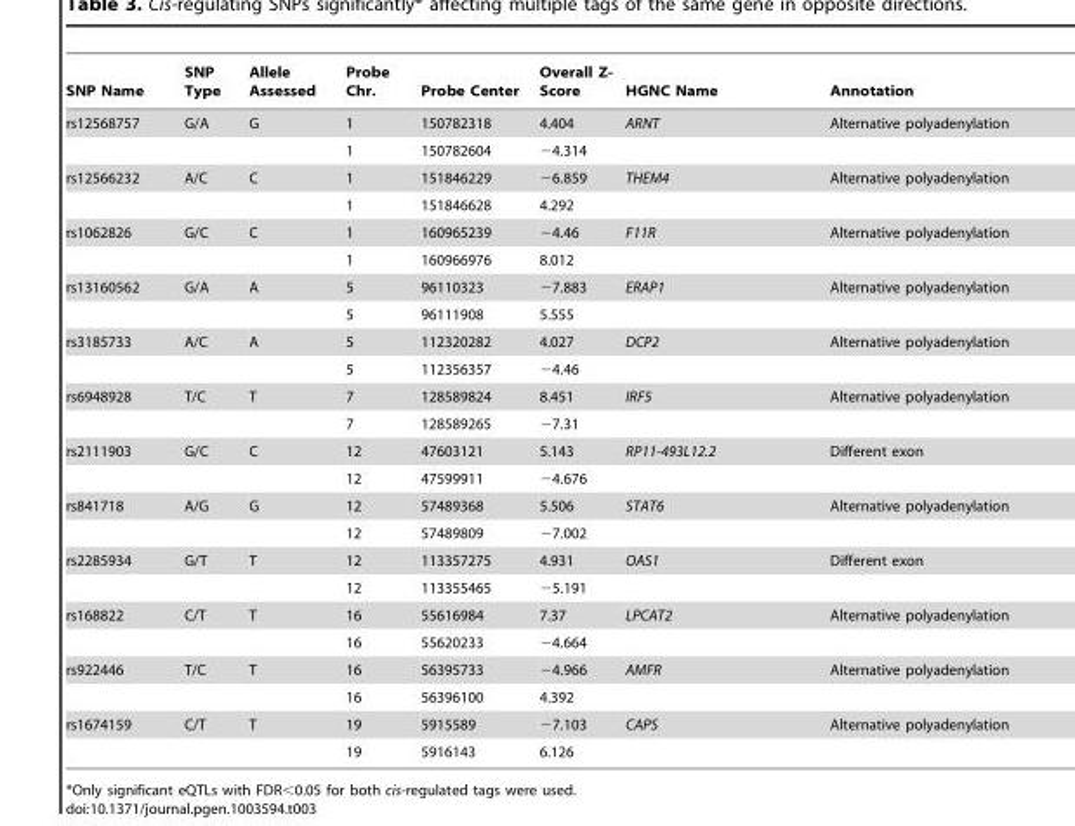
<table><thead><tr><td>SNP Name</td><td>SNP Type</td><td>Allele Assessed</td><td>Probe Chr.</td><td>Probe Center</td><td>Overall Z- Score</td><td>HGNC Name</td><td>Annotation</td></tr></thead><tbody><tr><td rowspan="2">rs12568757</td><td>G/A</td><td>G</td><td>1</td><td>150782318</td><td>4.404</td><td>ARNT</td><td>Alternative polyadenylation</td></tr><tr><td></td><td></td><td>1</td><td>150782604</td><td>−4.314</td><td></td><td></td></tr><tr><td rowspan="2">rs12566232</td><td>A/C</td><td>C</td><td>1</td><td>151846229</td><td>−6.859</td><td>THEM4</td><td>Alternative polyadenylation</td></tr><tr><td></td><td></td><td>1</td><td>151846628</td><td>4.292</td><td></td><td></td></tr><tr><td rowspan="2">rs1062826</td><td>G/C</td><td>C</td><td>1</td><td>160965239</td><td>−4.46</td><td>F11R</td><td>Alternative polyadenylation</td></tr><tr><td></td><td></td><td>1</td><td>160966976</td><td>8.012</td><td></td><td></td></tr><tr><td rowspan="2">rs13160562</td><td>G/A</td><td>A</td><td>5</td><td>96110323</td><td>−7.883</td><td>ERAP1</td><td>Alternative polyadenylation</td></tr><tr><td></td><td></td><td>5</td><td>96111908</td><td>5.555</td><td></td><td></td></tr><tr><td rowspan="2">rs3185733</td><td>A/C</td><td>A</td><td>5</td><td>112320282</td><td>4.027</td><td>DCP2</td><td>Alternative polyadenylation</td></tr><tr><td></td><td></td><td>5</td><td>112356357</td><td>−4.46</td><td></td><td></td></tr><tr><td rowspan="2">rs6948928</td><td>T/C</td><td>T</td><td>7</td><td>128589824</td><td>8.451</td><td>IRF5</td><td>Alternative polyadenylation</td></tr><tr><td></td><td></td><td>7</td><td>128589265</td><td>−7.31</td><td></td><td></td></tr><tr><td rowspan="2">rs2111903</td><td>G/C</td><td>C</td><td>12</td><td>47603121</td><td>5.143</td><td>RP11-493L12.2</td><td>Different exon</td></tr><tr><td></td><td></td><td>12</td><td>47599911</td><td>−4.676</td><td></td><td></td></tr><tr><td rowspan="2">rs841718</td><td>A/G</td><td>G</td><td>12</td><td>57489368</td><td>5.506</td><td>STAT6</td><td>Alternative polyadenylation</td></tr><tr><td></td><td></td><td>12</td><td>57489809</td><td>−7.002</td><td></td><td></td></tr><tr><td rowspan="2">rs2285934</td><td>G/T</td><td>T</td><td>12</td><td>113357275</td><td>4.931</td><td>OAS1</td><td>Different exon</td></tr><tr><td></td><td></td><td>12</td><td>113355465</td><td>−5.191</td><td></td><td></td></tr><tr><td rowspan="2">rs168822</td><td>C/T</td><td>T</td><td>16</td><td>55616984</td><td>7.37</td><td>LPCAT2</td><td>Alternative polyadenylation</td></tr><tr><td></td><td></td><td>16</td><td>55620233</td><td>−4.664</td><td></td><td></td></tr><tr><td rowspan="2">rs922446</td><td>T/C</td><td>T</td><td>16</td><td>56395733</td><td>−4.966</td><td>AMFR</td><td>Alternative polyadenylation</td></tr><tr><td></td><td></td><td>16</td><td>56396100</td><td>4.392</td><td></td><td></td></tr><tr><td rowspan="2">rs1674159</td><td>C/T</td><td>T</td><td>19</td><td>5915589</td><td>−7.103</td><td>CAPS</td><td>Alternative polyadenylation</td></tr><tr><td></td><td></td><td>19</td><td>5916143</td><td>6.126</td><td></td><td></td></tr></tbody></table>